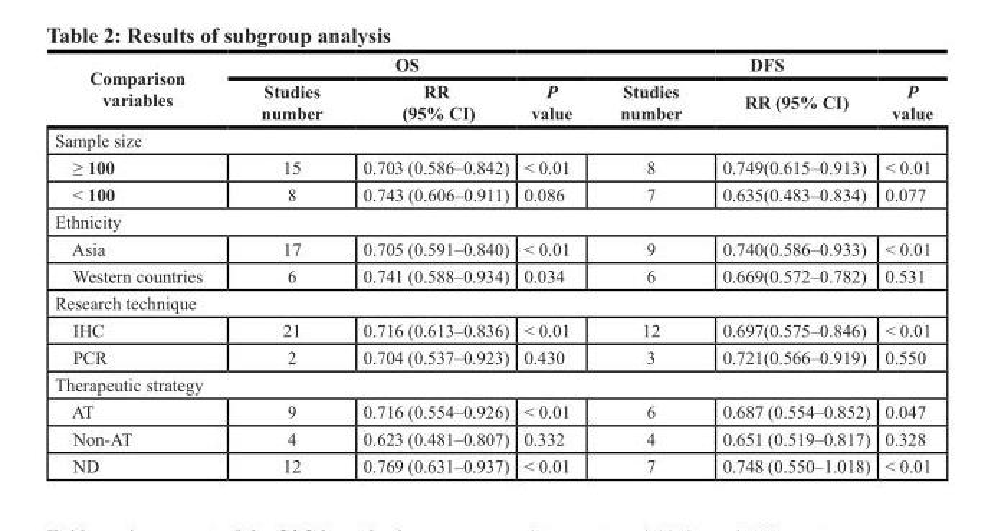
<table><thead><tr><td rowspan="2">Comparison variables</td><td colspan="3">OS</td><td colspan="3">DFS</td></tr><tr><td>Studies number</td><td>RR (95% CI)</td><td>P value</td><td>Studies number</td><td>RR (95% CI)</td><td>P value</td></tr></thead><tbody><tr><td colspan="7">Sample size</td></tr><tr><td>≥ 100</td><td>15</td><td>0.703 (0.586–0.842)</td><td>&lt; 0.01</td><td>8</td><td>0.749(0.615–0.913)</td><td>&lt; 0.01</td></tr><tr><td>&lt; 100</td><td>8</td><td>0.743 (0.606–0.911)</td><td>0.086</td><td>7</td><td>0.635(0.483–0.834)</td><td>0.077</td></tr><tr><td colspan="7">Ethnicity</td></tr><tr><td>Asia</td><td>17</td><td>0.705 (0.591–0.840)</td><td>&lt; 0.01</td><td>9</td><td>0.740(0.586–0.933)</td><td>&lt; 0.01</td></tr><tr><td>Western countries</td><td>6</td><td>0.741 (0.588–0.934)</td><td>0.034</td><td>6</td><td>0.669(0.572–0.782)</td><td>0.531</td></tr><tr><td colspan="7">Research technique</td></tr><tr><td>IHC</td><td>21</td><td>0.716 (0.613–0.836)</td><td>&lt; 0.01</td><td>12</td><td>0.697(0.575–0.846)</td><td>&lt; 0.01</td></tr><tr><td>PCR</td><td>2</td><td>0.704 (0.537–0.923)</td><td>0.430</td><td>3</td><td>0.721(0.566–0.919)</td><td>0.550</td></tr><tr><td colspan="7">Therapeutic strategy</td></tr><tr><td>AT</td><td>9</td><td>0.716 (0.554–0.926)</td><td>&lt; 0.01</td><td>6</td><td>0.687 (0.554–0.852)</td><td>0.047</td></tr><tr><td>Non-AT</td><td>4</td><td>0.623 (0.481–0.807)</td><td>0.332</td><td>4</td><td>0.651 (0.519–0.817)</td><td>0.328</td></tr><tr><td>ND</td><td>12</td><td>0.769 (0.631–0.937)</td><td>&lt; 0.01</td><td>7</td><td>0.748 (0.550–1.018)</td><td>&lt; 0.01</td></tr></tbody></table>